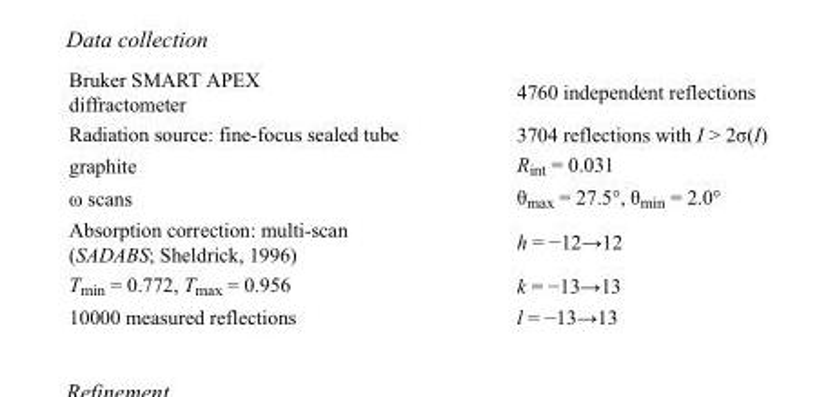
<table><tbody><tr><td>Bruker SMART APEX diffractometer</td><td>4760 independent reflections</td></tr><tr><td>Radiation source: fine-focus sealed tube</td><td>3704 reflections with I &gt; 2σ(I)</td></tr><tr><td>graphite</td><td>R<sub>int</sub> = 0.031</td></tr><tr><td>ω scans</td><td>θ<sub>max</sub> = 27.5°, θ<sub>min</sub> = 2.0°</td></tr><tr><td>Absorption correction: multi-scan (SADABS; Sheldrick, 1996)</td><td>h = −12→12</td></tr><tr><td>T<sub>min</sub> = 0.772, T<sub>max</sub> = 0.956</td><td>k = −13→13</td></tr><tr><td>10000 measured reflections</td><td>l = −13→13</td></tr></tbody></table>